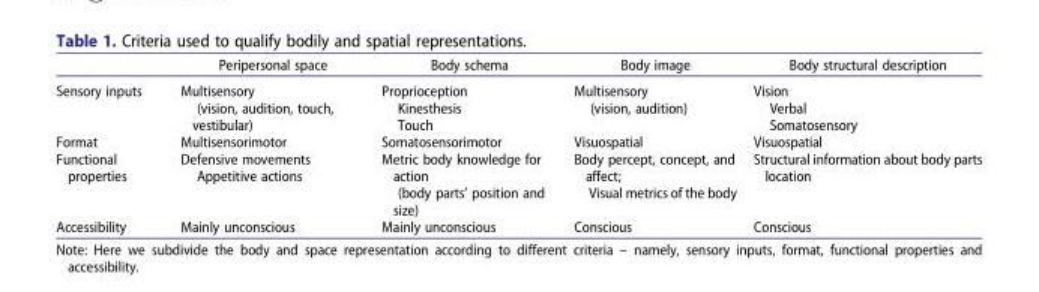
<table><thead><tr><td></td><td>Peripersonal space</td><td>Body schema</td><td>Body image</td><td>Body structural description</td></tr></thead><tbody><tr><td>Sensory inputs</td><td>Multisensory (vision, audition, touch, vestibular)</td><td>Proprioception Kinesthesis Touch</td><td>Multisensory (vision, audition)</td><td>Vision Verbal Somatosensory</td></tr><tr><td>Format</td><td>Multisensorimotor</td><td>Somatosensorimotor</td><td>Visuospatial</td><td>Visuospatial</td></tr><tr><td>Functional properties</td><td>Defensive movements Appetitive actions</td><td>Metric body knowledge for action (body parts’ position and size)</td><td>Body percept, concept, and affect; Visual metrics of the body</td><td>Structural information about body parts location</td></tr><tr><td>Accessibility</td><td>Mainly unconscious</td><td>Mainly unconscious</td><td>Conscious</td><td>Conscious</td></tr></tbody></table>